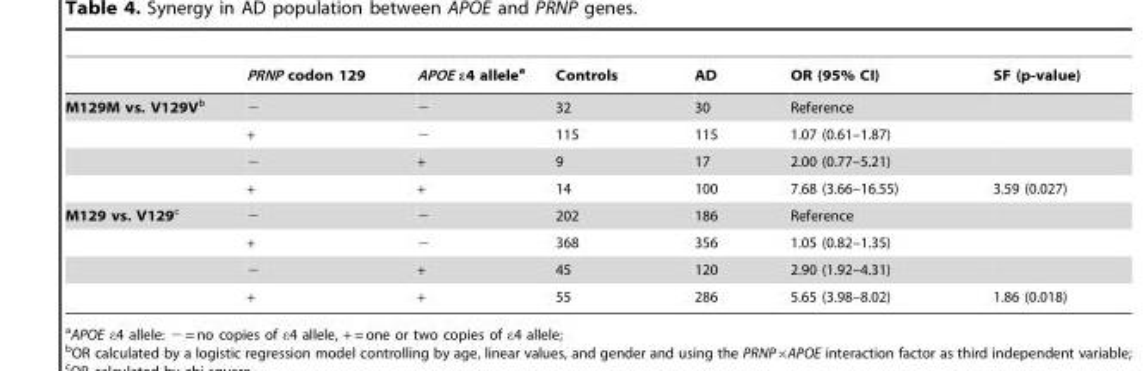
<table><thead><tr><td></td><td>PRNP codon 129</td><td>APOE ε4 allele<sup>a</sup></td><td>Controls</td><td>AD</td><td>OR (95% CI)</td><td>SF (p-value)</td></tr></thead><tbody><tr><td rowspan="4">M129M vs. V129Vb</td><td>−</td><td>−</td><td>32</td><td>30</td><td>Reference</td><td></td></tr><tr><td>+</td><td>−</td><td>115</td><td>115</td><td>1.07 (0.61–1.87)</td><td></td></tr><tr><td>−</td><td>+</td><td>9</td><td>17</td><td>2.00 (0.77–5.21)</td><td></td></tr><tr><td>+</td><td>+</td><td>14</td><td>100</td><td>7.68 (3.66–16.55)</td><td>3.59 (0.027)</td></tr><tr><td rowspan="4">M129 vs. V129c</td><td>−</td><td>−</td><td>202</td><td>186</td><td>Reference</td><td></td></tr><tr><td>+</td><td>−</td><td>368</td><td>356</td><td>1.05 (0.82–1.35)</td><td></td></tr><tr><td>−</td><td>+</td><td>45</td><td>120</td><td>2.90 (1.92–4.31)</td><td></td></tr><tr><td>+</td><td>+</td><td>55</td><td>286</td><td>5.65 (3.98–8.02)</td><td>1.86 (0.018)</td></tr></tbody></table>